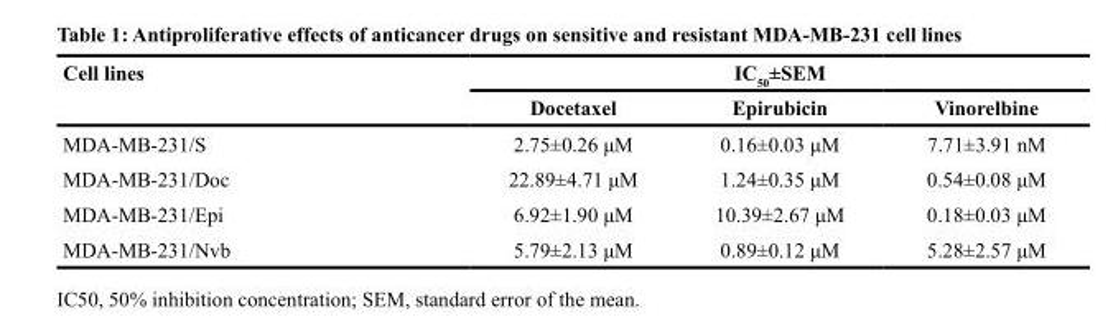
<table><thead><tr><td rowspan="2">Cell lines</td><td colspan="3">IC<sub>50</sub>±SEM</td></tr><tr><td>Docetaxel</td><td>Epirubicin</td><td>Vinorelbine</td></tr></thead><tbody><tr><td>MDA-MB-231/S</td><td>2.75±0.26 μM</td><td>0.16±0.03 μM</td><td>7.71±3.91 nM</td></tr><tr><td>MDA-MB-231/Doc</td><td>22.89±4.71 μM</td><td>1.24±0.35 μM</td><td>0.54±0.08 μM</td></tr><tr><td>MDA-MB-231/Epi</td><td>6.92±1.90 μM</td><td>10.39±2.67 μM</td><td>0.18±0.03 μM</td></tr><tr><td>MDA-MB-231/Nvb</td><td>5.79±2.13 μM</td><td>0.89±0.12 μM</td><td>5.28±2.57 μM</td></tr></tbody></table>